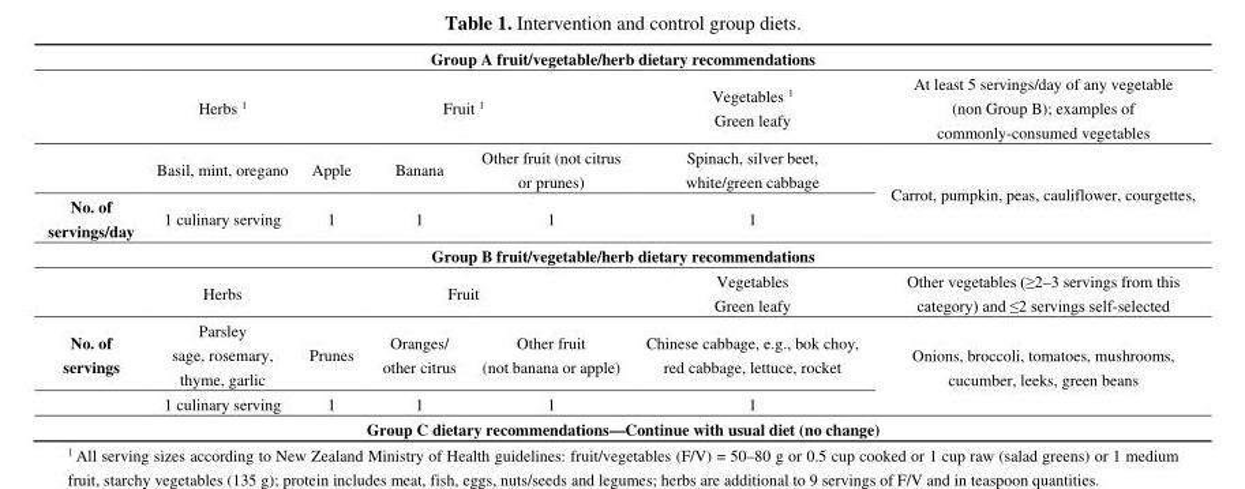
<table><tbody><tr><td colspan="7">Group A fruit/vegetable/herb dietary recommendations</td></tr><tr><td></td><td>Herbs <sup>1</sup></td><td colspan="3">Fruit <sup>1</sup></td><td>Vegetables <sup>1</sup> Green leafy</td><td>At least 5 servings/day of any vegetable (non Group B); examples of commonly-consumed vegetables</td></tr><tr><td></td><td>Basil, mint, oregano</td><td>Apple</td><td>Banana</td><td>Other fruit (not citrus or prunes)</td><td>Spinach, silver beet, white/green cabbage</td><td rowspan="2">Carrot, pumpkin, peas, cauliflower, courgettes,</td></tr><tr><td>No. of servings/day</td><td>1 culinary serving</td><td>1</td><td>1</td><td>1</td><td>1</td></tr><tr><td colspan="7">Group B fruit/vegetable/herb dietary recommendations</td></tr><tr><td></td><td>Herbs</td><td colspan="3">Fruit</td><td>Vegetables Green leafy</td><td>Other vegetables (≥2–3 servings from this category) and ≤2 servings self-selected</td></tr><tr><td rowspan="2">No. of servings</td><td>Parsley sage, rosemary, thyme, garlic</td><td>Prunes</td><td>Oranges/ other citrus</td><td>Other fruit (not banana or apple)</td><td>Chinese cabbage, e.g., bok choy, red cabbage, lettuce, rocket</td><td rowspan="2">Onions, broccoli, tomatoes, mushrooms, cucumber, leeks, green beans</td></tr><tr><td>1 culinary serving</td><td>1</td><td>1</td><td>1</td><td>1</td></tr><tr><td colspan="7">Group C dietary recommendations—Continue with usual diet (no change)</td></tr></tbody></table>